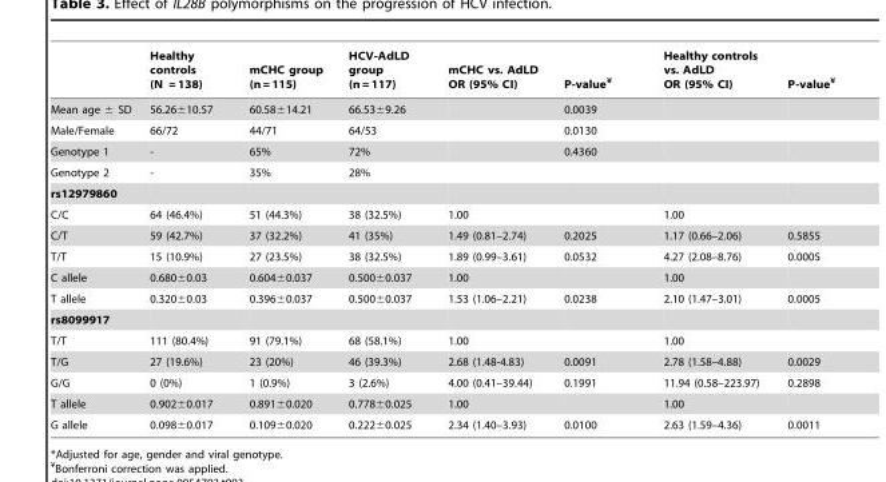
<table><thead><tr><td></td><td>Healthy controls (N = 138)</td><td>mCHC group (n = 115)</td><td>HCV-AdLD group (n = 117)</td><td>mCHC vs. AdLD OR (95% CI)</td><td>P-value¥</td><td>Healthy controls vs. AdLD OR (95% CI)</td><td>P-value¥</td></tr></thead><tbody><tr><td>Mean age ± SD</td><td>56.26±10.57</td><td>60.58±14.21</td><td>66.53±9.26</td><td></td><td>0.0039</td><td></td><td></td></tr><tr><td>Male/Female</td><td>66/72</td><td>44/71</td><td>64/53</td><td></td><td>0.0130</td><td></td><td></td></tr><tr><td>Genotype 1</td><td>-</td><td>65%</td><td>72%</td><td></td><td>0.4360</td><td></td><td></td></tr><tr><td>Genotype 2</td><td>-</td><td>35%</td><td>28%</td><td></td><td></td><td></td><td></td></tr><tr><td colspan="8">rs12979860</td></tr><tr><td>C/C</td><td>64 (46.4%)</td><td>51 (44.3%)</td><td>38 (32.5%)</td><td>1.00</td><td></td><td>1.00</td><td></td></tr><tr><td>C/T</td><td>59 (42.7%)</td><td>37 (32.2%)</td><td>41 (35%)</td><td>1.49 (0.81–2.74)</td><td>0.2025</td><td>1.17 (0.66–2.06)</td><td>0.5855</td></tr><tr><td>T/T</td><td>15 (10.9%)</td><td>27 (23.5%)</td><td>38 (32.5%)</td><td>1.89 (0.99–3.61)</td><td>0.0532</td><td>4.27 (2.08–8.76)</td><td>0.0005</td></tr><tr><td>C allele</td><td>0.680±0.03</td><td>0.604±0.037</td><td>0.500±0.037</td><td>1.00</td><td></td><td>1.00</td><td></td></tr><tr><td>T allele</td><td>0.320±0.03</td><td>0.396±0.037</td><td>0.500±0.037</td><td>1.53 (1.06–2.21)</td><td>0.0238</td><td>2.10 (1.47–3.01)</td><td>0.0005</td></tr><tr><td colspan="8">rs8099917</td></tr><tr><td>T/T</td><td>111 (80.4%)</td><td>91 (79.1%)</td><td>68 (58.1%)</td><td>1.00</td><td></td><td>1.00</td><td></td></tr><tr><td>T/G</td><td>27 (19.6%)</td><td>23 (20%)</td><td>46 (39.3%)</td><td>2.68 (1.48-4.83)</td><td>0.0091</td><td>2.78 (1.58–4.88)</td><td>0.0029</td></tr><tr><td>G/G</td><td>0 (0%)</td><td>1 (0.9%)</td><td>3 (2.6%)</td><td>4.00 (0.41–39.44)</td><td>0.1991</td><td>11.94 (0.58–223.97)</td><td>0.2898</td></tr><tr><td>T allele</td><td>0.902±0.017</td><td>0.891±0.020</td><td>0.778±0.025</td><td>1.00</td><td></td><td>1.00</td><td></td></tr><tr><td>G allele</td><td>0.098±0.017</td><td>0.109±0.020</td><td>0.222±0.025</td><td>2.34 (1.40–3.93)</td><td>0.0100</td><td>2.63 (1.59–4.36)</td><td>0.0011</td></tr></tbody></table>